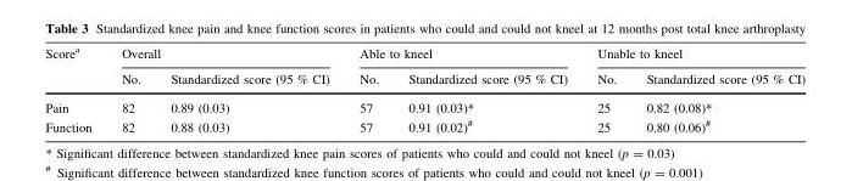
<table><thead><tr><td rowspan="2">Score<sup>a</sup></td><td colspan="2">Overall</td><td colspan="2">Able to kneel</td><td colspan="2">Unable to kneel</td></tr><tr><td>No.</td><td>Standardized score (95 % CI)</td><td>No.</td><td>Standardized score (95 % CI)</td><td>No.</td><td>Standardized score (95 % CI)</td></tr></thead><tbody><tr><td>Pain</td><td>82</td><td>0.89 (0.03)</td><td>57</td><td>0.91 (0.03)*</td><td>25</td><td>0.82 (0.08)*</td></tr><tr><td>Function</td><td>82</td><td>0.88 (0.03)</td><td>57</td><td>0.91 (0.02)<sup>#</sup></td><td>25</td><td>0.80 (0.06)<sup>#</sup></td></tr></tbody></table>